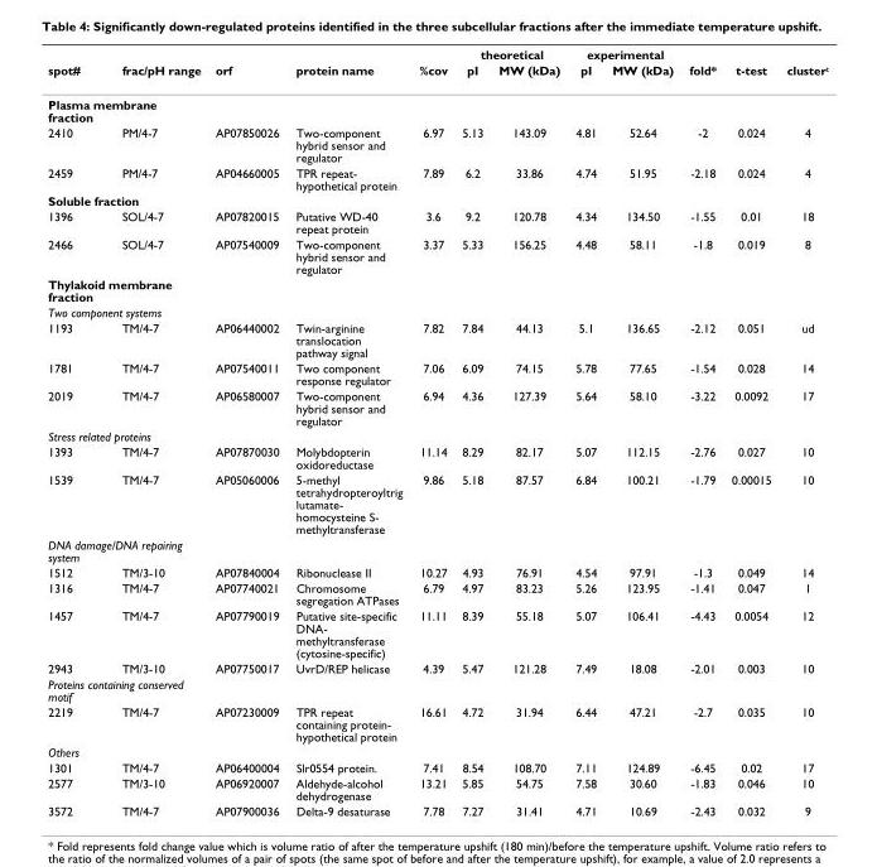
<table><thead><tr><td rowspan="2">spot#</td><td rowspan="2">frac/pH range</td><td rowspan="2">orf</td><td rowspan="2">protein name</td><td rowspan="2">%cov</td><td colspan="2">theoretical</td><td colspan="2">experimental</td><td rowspan="2">fold*</td><td rowspan="2">t-test</td><td rowspan="2">cluster<sup>t</sup></td></tr><tr><td>pI</td><td>MW (kDa)</td><td>pI</td><td>MW (kDa)</td></tr></thead><tbody><tr><td colspan="12">Plasma membrane fraction</td></tr><tr><td>2410</td><td>PM/4-7</td><td>AP07850026</td><td>Two-component hybrid sensor and regulator</td><td>6.97</td><td>5.13</td><td>143.09</td><td>4.81</td><td>52.64</td><td>-2</td><td>0.024</td><td>4</td></tr><tr><td>2459</td><td>PM/4-7</td><td>AP04660005</td><td>TPR repeat- hypothetical protein</td><td>7.89</td><td>6.2</td><td>33.86</td><td>4.74</td><td>51.95</td><td>-2.18</td><td>0.024</td><td>4</td></tr><tr><td colspan="12">Soluble fraction</td></tr><tr><td>1396</td><td>SOL/4-7</td><td>AP07820015</td><td>Putative WD-40 repeat protein</td><td>3.6</td><td>9.2</td><td>120.78</td><td>4.34</td><td>134.50</td><td>-1.55</td><td>0.01</td><td>18</td></tr><tr><td>2466</td><td>SOL/4-7</td><td>AP07540009</td><td>Two-component hybrid sensor and regulator</td><td>3.37</td><td>5.33</td><td>156.25</td><td>4.48</td><td>58.11</td><td>-1.8</td><td>0.019</td><td>8</td></tr><tr><td colspan="12">Thylakoid membrane fraction</td></tr><tr><td colspan="12">Two component systems</td></tr><tr><td>1193</td><td>TM/4-7</td><td>AP06440002</td><td>Twin-arginine translocation pathway signal</td><td>7.82</td><td>7.84</td><td>44.13</td><td>5.1</td><td>136.65</td><td>-2.12</td><td>0.051</td><td>ud</td></tr><tr><td>1781</td><td>TM/4-7</td><td>AP07540011</td><td>Two component response regulator</td><td>7.06</td><td>6.09</td><td>74.15</td><td>5.78</td><td>77.65</td><td>-1.54</td><td>0.028</td><td>14</td></tr><tr><td>2019</td><td>TM/4-7</td><td>AP06580007</td><td>Two-component hybrid sensor and regulator</td><td>6.94</td><td>4.36</td><td>127.39</td><td>5.64</td><td>58.10</td><td>-3.22</td><td>0.0092</td><td>17</td></tr><tr><td colspan="12">Stress related proteins</td></tr><tr><td>1393</td><td>TM/4-7</td><td>AP07870030</td><td>Molybdopterin oxidoreductase</td><td>11.14</td><td>8.29</td><td>82.17</td><td>5.07</td><td>112.15</td><td>-2.76</td><td>0.027</td><td>10</td></tr><tr><td>1539</td><td>TM/4-7</td><td>AP05060006</td><td>5-methyl tetrahydropteroyltrig lutamate- homocysteine S- methyltransferase</td><td>9.86</td><td>5.18</td><td>87.57</td><td>6.84</td><td>100.21</td><td>-1.79</td><td>0.00015</td><td>10</td></tr><tr><td colspan="12">DNA damage/DNA repairing system</td></tr><tr><td>1512</td><td>TM/3-10</td><td>AP07840004</td><td>Ribonuclease II</td><td>10.27</td><td>4.93</td><td>76.91</td><td>4.54</td><td>97.91</td><td>-1.3</td><td>0.049</td><td>14</td></tr><tr><td>1316</td><td>TM/4-7</td><td>AP07740021</td><td>Chromosome segregation ATPases</td><td>6.79</td><td>4.97</td><td>83.23</td><td>5.26</td><td>123.95</td><td>-1.41</td><td>0.047</td><td>1</td></tr><tr><td>1457</td><td>TM/4-7</td><td>AP07790019</td><td>Putative site-specific DNA- methyltransferase (cytosine-specific)</td><td>11.11</td><td>8.39</td><td>55.18</td><td>5.07</td><td>106.41</td><td>-4.43</td><td>0.0054</td><td>12</td></tr><tr><td>2943</td><td>TM/3-10</td><td>AP07750017</td><td>UvrD/REP helicase</td><td>4.39</td><td>5.47</td><td>121.28</td><td>7.49</td><td>18.08</td><td>-2.01</td><td>0.003</td><td>10</td></tr><tr><td colspan="12">Proteins containing conserved motif</td></tr><tr><td>2219</td><td>TM/4-7</td><td>AP07230009</td><td>TPR repeat containing protein- hypothetical protein</td><td>16.61</td><td>4.72</td><td>31.94</td><td>6.44</td><td>47.21</td><td>-2.7</td><td>0.035</td><td>10</td></tr><tr><td colspan="12">Others</td></tr><tr><td>1301</td><td>TM/4-7</td><td>AP06400004</td><td>Slr0554 protein.</td><td>7.41</td><td>8.54</td><td>108.70</td><td>7.11</td><td>124.89</td><td>-6.45</td><td>0.02</td><td>17</td></tr><tr><td>2577</td><td>TM/3-10</td><td>AP06920007</td><td>Aldehyde-alcohol dehydrogenase</td><td>13.21</td><td>5.85</td><td>54.75</td><td>7.58</td><td>30.60</td><td>-1.83</td><td>0.046</td><td>10</td></tr><tr><td>3572</td><td>TM/4-7</td><td>AP07900036</td><td>Delta-9 desaturase</td><td>7.78</td><td>7.27</td><td>31.41</td><td>4.71</td><td>10.69</td><td>-2.43</td><td>0.032</td><td>9</td></tr></tbody></table>